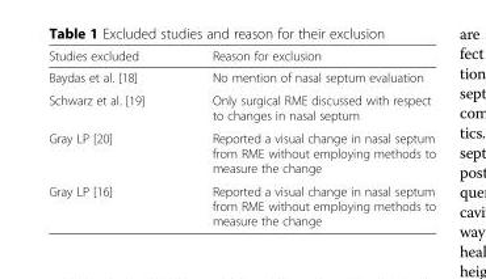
<table><thead><tr><td>Studies excluded</td><td>Reason for exclusion</td></tr></thead><tbody><tr><td>Baydas et al. [18]</td><td>No mention of nasal septum evaluation</td></tr><tr><td>Schwarz et al. [19]</td><td>Only surgical RME discussed with respect to changes in nasal septum</td></tr><tr><td>Gray LP [20]</td><td>Reported a visual change in nasal septum from RME without employing methods to measure the change</td></tr><tr><td>Gray LP [16]</td><td>Reported a visual change in nasal septum from RME without employing methods to measure the change</td></tr></tbody></table>